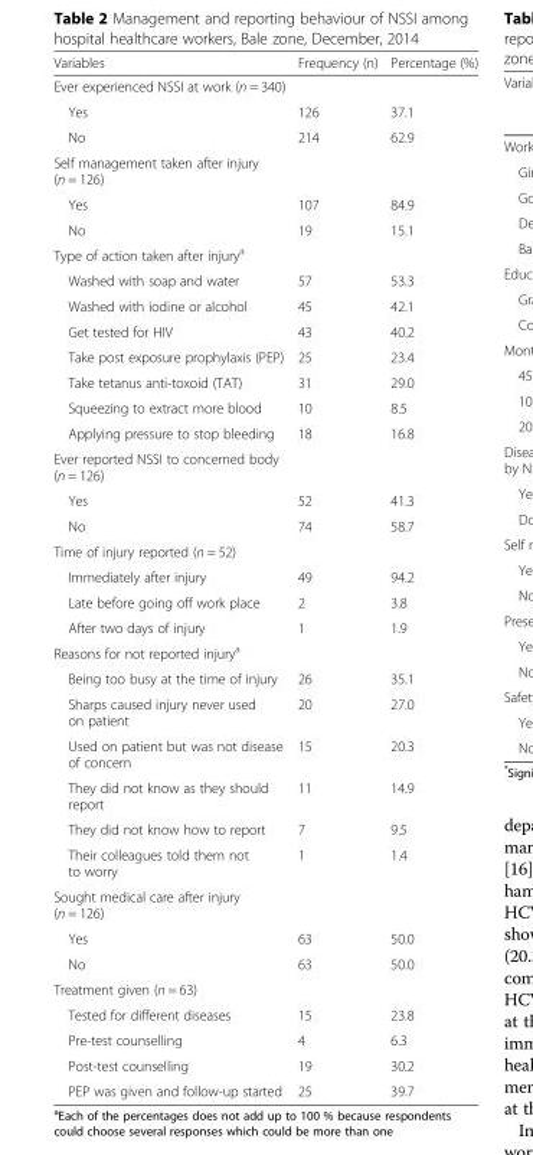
<table><thead><tr><td>Variables</td><td>Frequency (n)</td><td>Percentage (%)</td></tr></thead><tbody><tr><td colspan="3">Ever experienced NSSI at work (n = 340)</td></tr><tr><td>Yes</td><td>126</td><td>37.1</td></tr><tr><td>No</td><td>214</td><td>62.9</td></tr><tr><td colspan="3">Self management taken after injury (n = 126)</td></tr><tr><td>Yes</td><td>107</td><td>84.9</td></tr><tr><td>No</td><td>19</td><td>15.1</td></tr><tr><td colspan="3">Type of action taken after injury<sup>a</sup></td></tr><tr><td>Washed with soap and water</td><td>57</td><td>53.3</td></tr><tr><td>Washed with iodine or alcohol</td><td>45</td><td>42.1</td></tr><tr><td>Get tested for HIV</td><td>43</td><td>40.2</td></tr><tr><td>Take post exposure prophylaxis (PEP)</td><td>25</td><td>23.4</td></tr><tr><td>Take tetanus anti-toxoid (TAT)</td><td>31</td><td>29.0</td></tr><tr><td>Squeezing to extract more blood</td><td>10</td><td>8.5</td></tr><tr><td>Applying pressure to stop bleeding</td><td>18</td><td>16.8</td></tr><tr><td colspan="3">Ever reported NSSI to concerned body (n = 126)</td></tr><tr><td>Yes</td><td>52</td><td>41.3</td></tr><tr><td>No</td><td>74</td><td>58.7</td></tr><tr><td colspan="3">Time of injury reported (n = 52)</td></tr><tr><td>Immediately after injury</td><td>49</td><td>94.2</td></tr><tr><td>Late before going off work place</td><td>2</td><td>3.8</td></tr><tr><td>After two days of injury</td><td>1</td><td>1.9</td></tr><tr><td colspan="3">Reasons for not reported injury<sup>a</sup></td></tr><tr><td>Being too busy at the time of injury</td><td>26</td><td>35.1</td></tr><tr><td>Sharps caused injury never used on patient</td><td>20</td><td>27.0</td></tr><tr><td>Used on patient but was not disease of concern</td><td>15</td><td>20.3</td></tr><tr><td>They did not know as they should report</td><td>11</td><td>14.9</td></tr><tr><td>They did not know how to report</td><td>7</td><td>9.5</td></tr><tr><td>Their colleagues told them not to worry</td><td>1</td><td>1.4</td></tr><tr><td colspan="3">Sought medical care after injury (n = 126)</td></tr><tr><td>Yes</td><td>63</td><td>50.0</td></tr><tr><td>No</td><td>63</td><td>50.0</td></tr><tr><td colspan="3">Treatment given (n = 63)</td></tr><tr><td>Tested for different diseases</td><td>15</td><td>23.8</td></tr><tr><td>Pre-test counselling</td><td>4</td><td>6.3</td></tr><tr><td>Post-test counselling</td><td>19</td><td>30.2</td></tr><tr><td>PEP was given and follow-up started</td><td>25</td><td>39.7</td></tr></tbody></table>